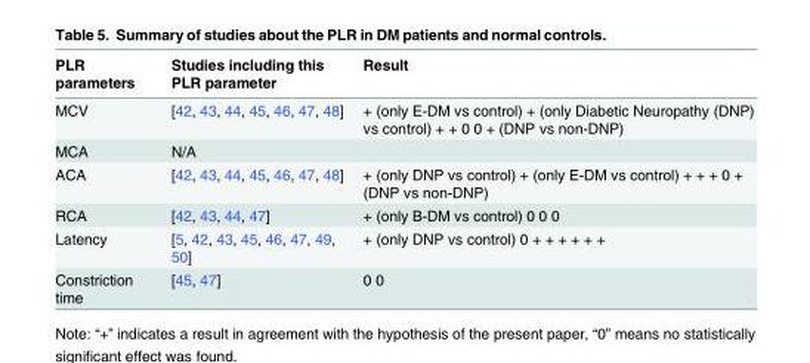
<table><thead><tr><td>PLR parameters</td><td>Studies including this PLR parameter</td><td>Result</td></tr></thead><tbody><tr><td>MCV</td><td>[42, 43, 44, 45, 46, 47, 48]</td><td>+ (only E-DM vs control) + (only Diabetic Neuropathy (DNP) vs control) + + 0 0 + (DNP vs non-DNP)</td></tr><tr><td>MCA</td><td>N/A</td><td></td></tr><tr><td>ACA</td><td>[42, 43, 44, 45, 46, 47, 48]</td><td>+ (only DNP vs control) + (only E-DM vs control) + + + 0 + (DNP vs non-DNP)</td></tr><tr><td>RCA</td><td>[42, 43, 44, 47]</td><td>+ (only B-DM vs control) 0 0 0</td></tr><tr><td>Latency</td><td>[5, 42, 43, 45, 46, 47, 49, 50]</td><td>+ (only DNP vs control) 0 + + + + + +</td></tr><tr><td>Constriction time</td><td>[45, 47]</td><td>0 0</td></tr></tbody></table>